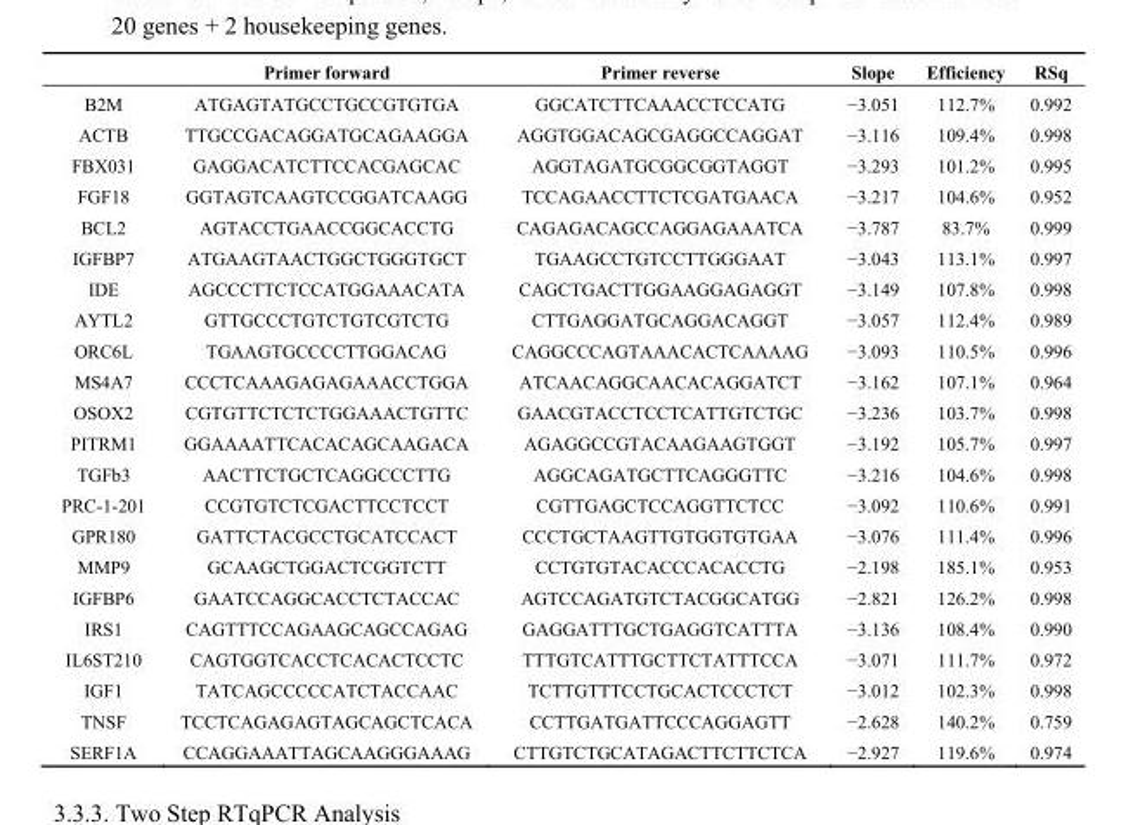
<table><thead><tr><td></td><td>Primer forward</td><td>Primer reverse</td><td>Slope</td><td>Efficiency</td><td>RSq</td></tr></thead><tbody><tr><td>B2M</td><td>ATGAGTATGCCTGCCGTGTGA</td><td>GGCATCTTCAAACCTCCATG</td><td>−3.051</td><td>112.7%</td><td>0.992</td></tr><tr><td>ACTB</td><td>TTGCCGACAGGATGCAGAAGGA</td><td>AGGTGGACAGCGAGGCCAGGAT</td><td>−3.116</td><td>109.4%</td><td>0.998</td></tr><tr><td>FBX031</td><td>GAGGACATCTTCCACGAGCAC</td><td>AGGTAGATGCGGCGGTAGGT</td><td>−3.293</td><td>101.2%</td><td>0.995</td></tr><tr><td>FGF18</td><td>GGTAGTCAAGTCCGGATCAAGG</td><td>TCCAGAACCTTCTCGATGAACA</td><td>−3.217</td><td>104.6%</td><td>0.952</td></tr><tr><td>BCL2</td><td>AGTACCTGAACCGGCACCTG</td><td>CAGAGACAGCCAGGAGAAATCA</td><td>−3.787</td><td>83.7%</td><td>0.999</td></tr><tr><td>IGFBP7</td><td>ATGAAGTAACTGGCTGGGTGCT</td><td>TGAAGCCTGTCCTTGGGAAT</td><td>−3.043</td><td>113.1%</td><td>0.997</td></tr><tr><td>IDE</td><td>AGCCCTTCTCCATGGAAACATA</td><td>CAGCTGACTTGGAAGGAGAGGT</td><td>−3.149</td><td>107.8%</td><td>0.998</td></tr><tr><td>AYTL2</td><td>GTTGCCCTGTCTGTCGTCTG</td><td>CTTGAGGATGCAGGACAGGT</td><td>−3.057</td><td>112.4%</td><td>0.989</td></tr><tr><td>ORC6L</td><td>TGAAGTGCCCCTTGGACAG</td><td>CAGGCCCAGTAAACACTCAAAAG</td><td>−3.093</td><td>110.5%</td><td>0.996</td></tr><tr><td>MS4A7</td><td>CCCTCAAAGAGAGAAACCTGGA</td><td>ATCAACAGGCAACACAGGATCT</td><td>−3.162</td><td>107.1%</td><td>0.964</td></tr><tr><td>OSOX2</td><td>CGTGTTCTCTCTGGAAACTGTTC</td><td>GAACGTACCTCCTCATTGTCTGC</td><td>−3.236</td><td>103.7%</td><td>0.998</td></tr><tr><td>PITRM1</td><td>GGAAAATTCACACAGCAAGACA</td><td>AGAGGCCGTACAAGAAGTGGT</td><td>−3.192</td><td>105.7%</td><td>0.997</td></tr><tr><td>TGFb3</td><td>AACTTCTGCTCAGGCCCTTG</td><td>AGGCAGATGCTTCAGGGTTC</td><td>−3.216</td><td>104.6%</td><td>0.998</td></tr><tr><td>PRC-1-201</td><td>CCGTGTCTCGACTTCCTCCT</td><td>CGTTGAGCTCCAGGTTCTCC</td><td>−3.092</td><td>110.6%</td><td>0.991</td></tr><tr><td>GPR180</td><td>GATTCTACGCCTGCATCCACT</td><td>CCCTGCTAAGTTGTGGTGTGAA</td><td>−3.076</td><td>111.4%</td><td>0.996</td></tr><tr><td>MMP9</td><td>GCAAGCTGGACTCGGTCTT</td><td>CCTGTGTACACCCACACCTG</td><td>−2.198</td><td>185.1%</td><td>0.953</td></tr><tr><td>IGFBP6</td><td>GAATCCAGGCACCTCTACCAC</td><td>AGTCCAGATGTCTACGGCATGG</td><td>−2.821</td><td>126.2%</td><td>0.998</td></tr><tr><td>IRS1</td><td>CAGTTTCCAGAAGCAGCCAGAG</td><td>GAGGATTTGCTGAGGTCATTTA</td><td>−3.136</td><td>108.4%</td><td>0.990</td></tr><tr><td>IL6ST210</td><td>CAGTGGTCACCTCACACTCCTC</td><td>TTTGTCATTTGCTTCTATTTCCA</td><td>−3.071</td><td>111.7%</td><td>0.972</td></tr><tr><td>IGF1</td><td>TATCAGCCCCCATCTACCAAC</td><td>TCTTGTTTCCTGCACTCCCTCT</td><td>−3.012</td><td>102.3%</td><td>0.998</td></tr><tr><td>TNSF</td><td>TCCTCAGAGAGTAGCAGCTCACA</td><td>CCTTGATGATTCCCAGGAGTT</td><td>−2.628</td><td>140.2%</td><td>0.759</td></tr><tr><td>SERF1A</td><td>CCAGGAAATTAGCAAGGGAAAG</td><td>CTTGTCTGCATAGACTTCTTCTCA</td><td>−2.927</td><td>119.6%</td><td>0.974</td></tr></tbody></table>